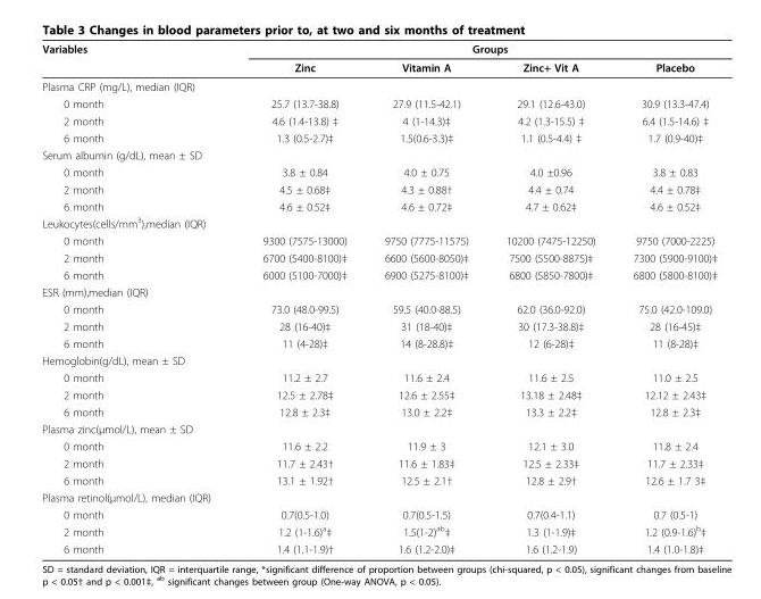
<table><thead><tr><td rowspan="2">Variables</td><td colspan="4">Groups</td></tr><tr><td>Zinc</td><td>Vitamin A</td><td>Zinc+ Vit A</td><td>Placebo</td></tr></thead><tbody><tr><td colspan="5">Plasma CRP (mg/L), median (IQR)</td></tr><tr><td>0 month</td><td>25.7 (13.7-38.8)</td><td>27.9 (11.5-42.1)</td><td>29.1 (12.6-43.0)</td><td>30.9 (13.3-47.4)</td></tr><tr><td>2 month</td><td>4.6 (1.4-13.8) ‡</td><td>4 (1-14.3)‡</td><td>4.2 (1.3-15.5) ‡</td><td>6.4 (1.5-14.6) ‡</td></tr><tr><td>6 month</td><td>1.3 (0.5-2.7)‡</td><td>1.5(0.6-3.3)‡</td><td>1.1 (0.5-4.4) ‡</td><td>1.7 (0.9-40)‡</td></tr><tr><td colspan="5">Serum albumin (g/dL), mean ± SD</td></tr><tr><td>0 month</td><td>3.8 ± 0.84</td><td>4.0 ± 0.75</td><td>4.0 ±0.96</td><td>3.8 ± 0.83</td></tr><tr><td>2 month</td><td>4.5 ± 0.68‡</td><td>4.3 ± 0.88†</td><td>4.4 ± 0.74</td><td>4.4 ± 0.78‡</td></tr><tr><td>6 month</td><td>4.6 ± 0.52‡</td><td>4.6 ± 0.72‡</td><td>4.7 ± 0.62‡</td><td>4.6 ± 0.52‡</td></tr><tr><td colspan="5">Leukocytes(cells/mm<sup>3</sup>),median (IQR)</td></tr><tr><td>0 month</td><td>9300 (7575-13000)</td><td>9750 (7775-11575)</td><td>10200 (7475-12250)</td><td>9750 (7000-2225)</td></tr><tr><td>2 month</td><td>6700 (5400-8100)‡</td><td>6600 (5600-8050)‡</td><td>7500 (5500-8875)‡</td><td>7300 (5900-9100)‡</td></tr><tr><td>6 month</td><td>6000 (5100-7000)‡</td><td>6900 (5275-8100)‡</td><td>6800 (5850-7800)‡</td><td>6800 (5800-8100)‡</td></tr><tr><td colspan="5">ESR (mm),median (IQR)</td></tr><tr><td>0 month</td><td>73.0 (48.0-99.5)</td><td>59.5 (40.0-88.5)</td><td>62.0 (36.0-92.0)</td><td>75.0 (42.0-109.0)</td></tr><tr><td>2 month</td><td>28 (16-40)‡</td><td>31 (18-40)‡</td><td>30 (17.3-38.8)‡</td><td>28 (16-45)‡</td></tr><tr><td>6 month</td><td>11 (4-28)‡</td><td>14 (8-28.8)‡</td><td>12 (6-28)‡</td><td>11 (8-28)‡</td></tr><tr><td colspan="5">Hemoglobin(g/dL), mean ± SD</td></tr><tr><td>0 month</td><td>11.2 ± 2.7</td><td>11.6 ± 2.4</td><td>11.6 ± 2.5</td><td>11.0 ± 2.5</td></tr><tr><td>2 month</td><td>12.5 ± 2.78‡</td><td>12.6 ± 2.55‡</td><td>13.18 ± 2.48‡</td><td>12.12 ± 2.43‡</td></tr><tr><td>6 month</td><td>12.8 ± 2.3‡</td><td>13.0 ± 2.2‡</td><td>13.3 ± 2.2‡</td><td>12.8 ± 2.3‡</td></tr><tr><td colspan="5">Plasma zinc(μmol/L), mean ± SD</td></tr><tr><td>0 month</td><td>11.6 ± 2.2</td><td>11.9 ± 3</td><td>12.1 ± 3.0</td><td>11.8 ± 2.4</td></tr><tr><td>2 month</td><td>11.7 ± 2.43†</td><td>11.6 ± 1.83‡</td><td>12.5 ± 2.33‡</td><td>11.7 ± 2.33‡</td></tr><tr><td>6 month</td><td>13.1 ± 1.92†</td><td>12.5 ± 2.1†</td><td>12.8 ± 2.9†</td><td>12.6 ± 1.7 3‡</td></tr><tr><td colspan="5">Plasma retinol(μmol/L), median (IQR)</td></tr><tr><td>0 month</td><td>0.7(0.5-1.0)</td><td>0.7(0.5-1.5)</td><td>0.7(0.4-1.1)</td><td>0.7 (0.5-1)</td></tr><tr><td>2 month</td><td>1.2 (1-1.6)<sup>a</sup>‡</td><td>1.5(1-2)<sup>ab</sup>‡</td><td>1.3 (1-1.9)‡</td><td>1.2 (0.9-1.6)<sup>b</sup>‡</td></tr><tr><td>6 month</td><td>1.4 (1.1-1.9)†</td><td>1.6 (1.2-2.0)‡</td><td>1.6 (1.2-1.9)</td><td>1.4 (1.0-1.8)‡</td></tr></tbody></table>